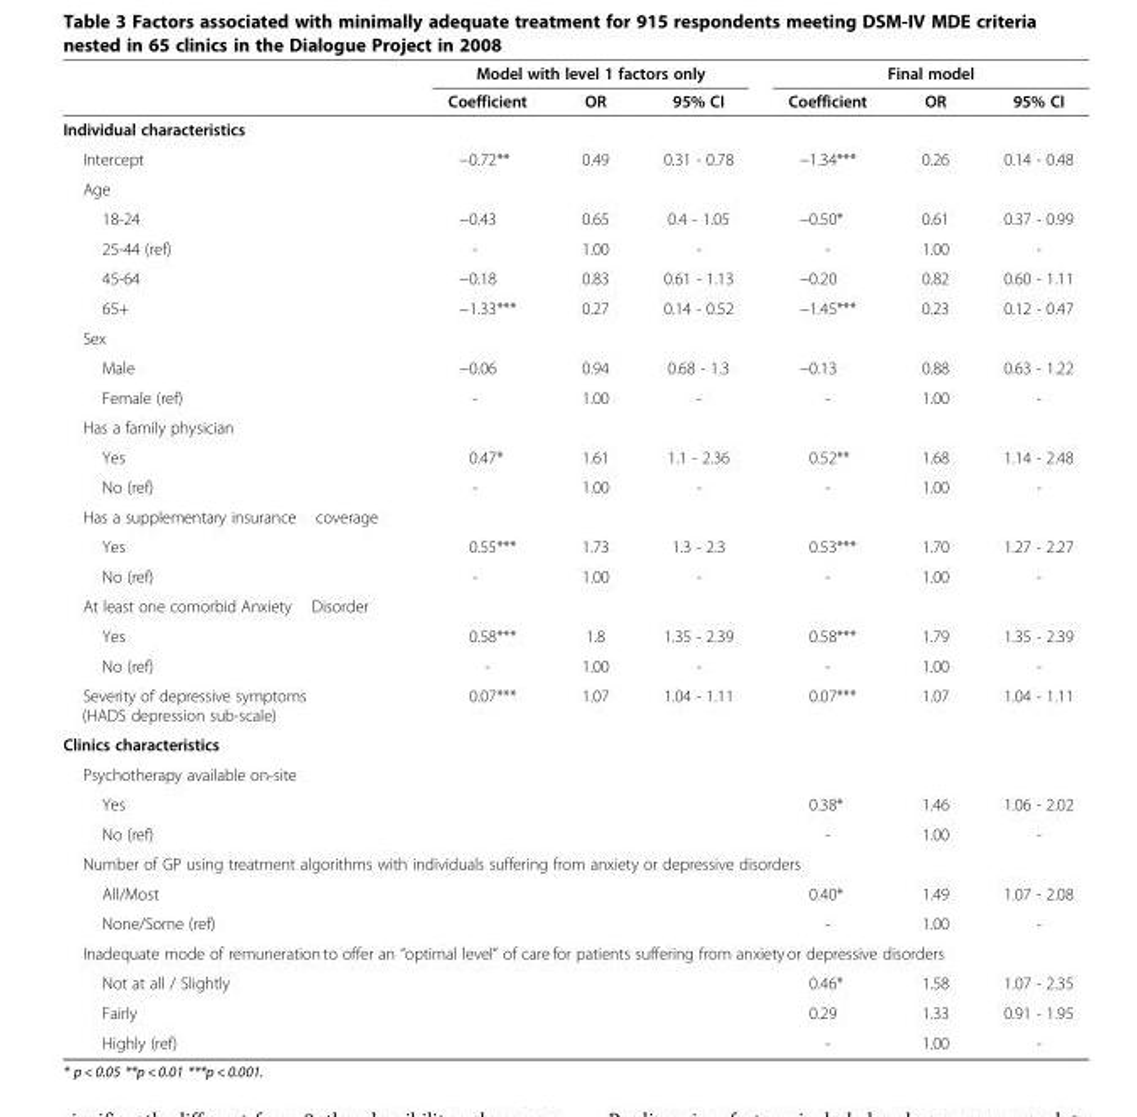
<table><thead><tr><td rowspan="2"></td><td colspan="3">Model with level 1 factors only</td><td colspan="3">Final model</td></tr><tr><td>Coefficient</td><td>OR</td><td>95% CI</td><td>Coefficient</td><td>OR</td><td>95% CI</td></tr></thead><tbody><tr><td colspan="7">Individual characteristics</td></tr><tr><td>Intercept</td><td>−0.72**</td><td>0.49</td><td>0.31 - 0.78</td><td>−1.34***</td><td>0.26</td><td>0.14 - 0.48</td></tr><tr><td colspan="7">Age</td></tr><tr><td>18-24</td><td>−0.43</td><td>0.65</td><td>0.4 - 1.05</td><td>−0.50*</td><td>0.61</td><td>0.37 - 0.99</td></tr><tr><td>25-44 (ref)</td><td>-</td><td>1.00</td><td>-</td><td>-</td><td>1.00</td><td>-</td></tr><tr><td>45-64</td><td>−0.18</td><td>0.83</td><td>0.61 - 1.13</td><td>−0.20</td><td>0.82</td><td>0.60 - 1.11</td></tr><tr><td>65+</td><td>−1.33***</td><td>0.27</td><td>0.14 - 0.52</td><td>−1.45***</td><td>0.23</td><td>0.12 - 0.47</td></tr><tr><td colspan="7">Sex</td></tr><tr><td>Male</td><td>−0.06</td><td>0.94</td><td>0.68 - 1.3</td><td>−0.13</td><td>0.88</td><td>0.63 - 1.22</td></tr><tr><td>Female (ref)</td><td>-</td><td>1.00</td><td>-</td><td>-</td><td>1.00</td><td>-</td></tr><tr><td colspan="7">Has a family physician</td></tr><tr><td>Yes</td><td>0.47*</td><td>1.61</td><td>1.1 - 2.36</td><td>0.52**</td><td>1.68</td><td>1.14 - 2.48</td></tr><tr><td>No (ref)</td><td>-</td><td>1.00</td><td>-</td><td>-</td><td>1.00</td><td>-</td></tr><tr><td colspan="7">Has a supplementary insurance coverage</td></tr><tr><td>Yes</td><td>0.55***</td><td>1.73</td><td>1.3 - 2.3</td><td>0.53***</td><td>1.70</td><td>1.27 - 2.27</td></tr><tr><td>No (ref)</td><td>-</td><td>1.00</td><td>-</td><td>-</td><td>1.00</td><td>-</td></tr><tr><td colspan="7">At least one comorbid Anxiety Disorder</td></tr><tr><td>Yes</td><td>0.58***</td><td>1.8</td><td>1.35 - 2.39</td><td>0.58***</td><td>1.79</td><td>1.35 - 2.39</td></tr><tr><td>No (ref)</td><td>-</td><td>1.00</td><td>-</td><td>-</td><td>1.00</td><td>-</td></tr><tr><td>Severity of depressive symptoms (HADS depression sub-scale)</td><td>0.07***</td><td>1.07</td><td>1.04 - 1.11</td><td>0.07***</td><td>1.07</td><td>1.04 - 1.11</td></tr><tr><td colspan="7">Clinics characteristics</td></tr><tr><td colspan="7">Psychotherapy available on-site</td></tr><tr><td>Yes</td><td></td><td></td><td></td><td>0.38*</td><td>1.46</td><td>1.06 - 2.02</td></tr><tr><td>No (ref)</td><td></td><td></td><td></td><td>-</td><td>1.00</td><td>-</td></tr><tr><td colspan="7">Number of GP using treatment algorithms with individuals suffering from anxiety or depressive disorders</td></tr><tr><td>All/Most</td><td></td><td></td><td></td><td>0.40*</td><td>1.49</td><td>1.07 - 2.08</td></tr><tr><td>None/Some (ref)</td><td></td><td></td><td></td><td>-</td><td>1.00</td><td>-</td></tr><tr><td colspan="7">Inadequate mode of remuneration to offer an “optimal level” of care for patients suffering from anxiety or depressive disorders</td></tr><tr><td>Not at all / Slightly</td><td></td><td></td><td></td><td>0.46*</td><td>1.58</td><td>1.07 - 2.35</td></tr><tr><td>Fairly</td><td></td><td></td><td></td><td>0.29</td><td>1.33</td><td>0.91 - 1.95</td></tr><tr><td>Highly (ref)</td><td></td><td></td><td></td><td>-</td><td>1.00</td><td>-</td></tr></tbody></table>